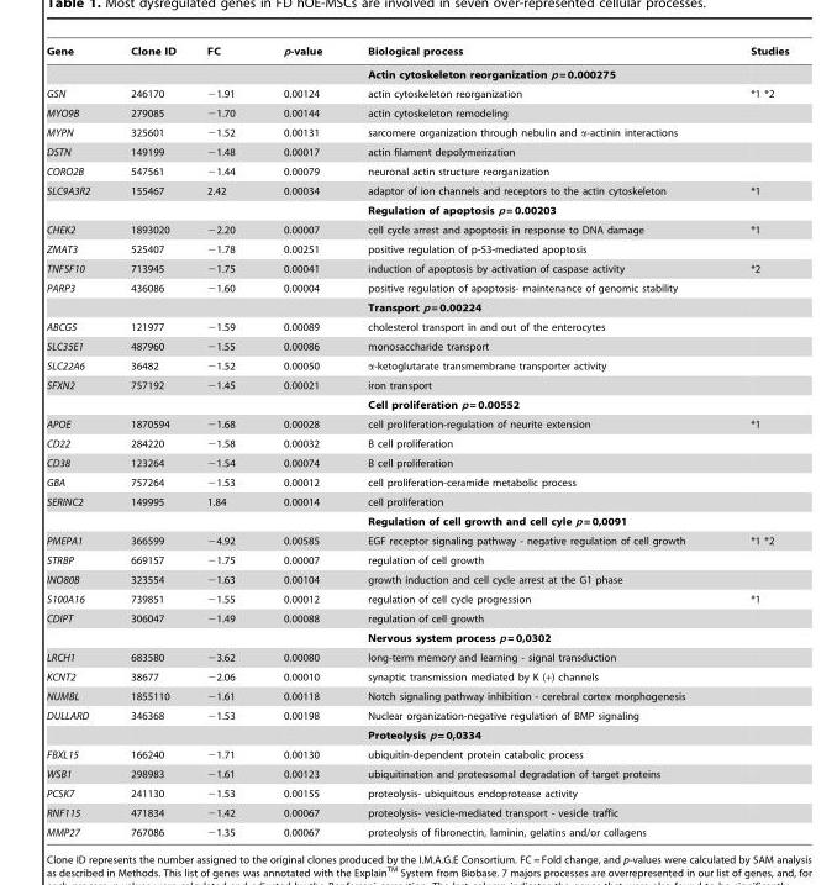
<table><thead><tr><td>Gene</td><td>Clone ID</td><td>FC</td><td>p-value</td><td>Biological process</td><td>Studies</td></tr></thead><tbody><tr><td></td><td></td><td></td><td></td><td>Actin cytoskeleton reorganization p = 0.000275</td><td></td></tr><tr><td>GSN</td><td>246170</td><td>−1.91</td><td>0.00124</td><td>actin cytoskeleton reorganization</td><td>*1 *2</td></tr><tr><td>MYO9B</td><td>279085</td><td>−1.70</td><td>0.00144</td><td>actin cytoskeleton remodeling</td><td></td></tr><tr><td>MYPN</td><td>325601</td><td>−1.52</td><td>0.00131</td><td>sarcomere organization through nebulin and α-actinin interactions</td><td></td></tr><tr><td>DSTN</td><td>149199</td><td>−1.48</td><td>0.00017</td><td>actin filament depolymerization</td><td></td></tr><tr><td>CORO2B</td><td>547561</td><td>−1.44</td><td>0.00079</td><td>neuronal actin structure reorganization</td><td></td></tr><tr><td rowspan="2">SLC9A3R2</td><td>155467</td><td>2.42</td><td>0.00034</td><td>adaptor of ion channels and receptors to the actin cytoskeleton</td><td>*1</td></tr><tr><td></td><td></td><td></td><td>Regulation of apoptosis p = 0.00203</td><td></td></tr><tr><td>CHEK2</td><td>1893020</td><td>−2.20</td><td>0.00007</td><td>cell cycle arrest and apoptosis in response to DNA damage</td><td>*1</td></tr><tr><td>ZMAT3</td><td>525407</td><td>−1.78</td><td>0.00251</td><td>positive regulation of p-53-mediated apoptosis</td><td></td></tr><tr><td>TNFSF10</td><td>713945</td><td>−1.75</td><td>0.00041</td><td>induction of apoptosis by activation of caspase activity</td><td>*2</td></tr><tr><td rowspan="2">PARP3</td><td>436086</td><td>−1.60</td><td>0.00004</td><td>positive regulation of apoptosis- maintenance of genomic stability</td><td></td></tr><tr><td></td><td></td><td></td><td>Transport p = 0.00224</td><td></td></tr><tr><td>ABCG5</td><td>121977</td><td>−1.59</td><td>0.00089</td><td>cholesterol transport in and out of the enterocytes</td><td></td></tr><tr><td>SLC35E1</td><td>487960</td><td>−1.55</td><td>0.00086</td><td>monosaccharide transport</td><td></td></tr><tr><td>SLC22A6</td><td>36482</td><td>−1.52</td><td>0.00050</td><td>α-ketoglutarate transmembrane transporter activity</td><td></td></tr><tr><td rowspan="2">SFXN2</td><td>757192</td><td>−1.45</td><td>0.00021</td><td>iron transport</td><td></td></tr><tr><td></td><td></td><td></td><td>Cell proliferation p = 0.00552</td><td></td></tr><tr><td>APOE</td><td>1870594</td><td>−1.68</td><td>0.00028</td><td>cell proliferation-regulation of neurite extension</td><td>*1</td></tr><tr><td>CD22</td><td>284220</td><td>−1.58</td><td>0.00032</td><td>B cell proliferation</td><td></td></tr><tr><td>CD38</td><td>123264</td><td>−1.54</td><td>0.00074</td><td>B cell proliferation</td><td></td></tr><tr><td>GBA</td><td>757264</td><td>−1.53</td><td>0.00012</td><td>cell proliferation-ceramide metabolic process</td><td></td></tr><tr><td rowspan="2">SERINC2</td><td>149995</td><td>1.84</td><td>0.00014</td><td>cell proliferation</td><td></td></tr><tr><td></td><td></td><td></td><td>Regulation of cell growth and cell cyle p = 0,0091</td><td></td></tr><tr><td>PMEPA1</td><td>366599</td><td>−4.92</td><td>0.00585</td><td>EGF receptor signaling pathway - negative regulation of cell growth</td><td>*1 *2</td></tr><tr><td>STRBP</td><td>669157</td><td>−1.75</td><td>0.00007</td><td>regulation of cell growth</td><td></td></tr><tr><td>INO80B</td><td>323554</td><td>−1.63</td><td>0.00104</td><td>growth induction and cell cycle arrest at the G1 phase</td><td></td></tr><tr><td>S100A16</td><td>739851</td><td>−1.55</td><td>0.00012</td><td>regulation of cell cycle progression</td><td>*1</td></tr><tr><td rowspan="2">CDIPT</td><td>306047</td><td>−1.49</td><td>0.00088</td><td>regulation of cell growth</td><td></td></tr><tr><td></td><td></td><td></td><td>Nervous system process p = 0,0302</td><td></td></tr><tr><td>LRCH1</td><td>683580</td><td>−3.62</td><td>0.00080</td><td>long-term memory and learning - signal transduction</td><td></td></tr><tr><td>KCNT2</td><td>38677</td><td>−2.06</td><td>0.00010</td><td>synaptic transmission mediated by K (+) channels</td><td></td></tr><tr><td>NUMBL</td><td>1855110</td><td>−1.61</td><td>0.00118</td><td>Notch signaling pathway inhibition - cerebral cortex morphogenesis</td><td></td></tr><tr><td rowspan="2">DULLARD</td><td>346368</td><td>−1.53</td><td>0.00198</td><td>Nuclear organization-negative regulation of BMP signaling</td><td></td></tr><tr><td></td><td></td><td></td><td>Proteolysis p = 0,0334</td><td></td></tr><tr><td>FBXL15</td><td>166240</td><td>−1.71</td><td>0.00130</td><td>ubiquitin-dependent protein catabolic process</td><td></td></tr><tr><td>WSB1</td><td>298983</td><td>−1.61</td><td>0.00123</td><td>ubiquitination and proteosomal degradation of target proteins</td><td></td></tr><tr><td>PCSK7</td><td>241130</td><td>−1.53</td><td>0.00155</td><td>proteolysis- ubiquitous endoprotease activity</td><td></td></tr><tr><td>RNF115</td><td>471834</td><td>−1.42</td><td>0.00067</td><td>proteolysis- vesicle-mediated transport - vesicle traffic</td><td></td></tr><tr><td>MMP27</td><td>767086</td><td>−1.35</td><td>0.00067</td><td>proteolysis of fibronectin, laminin, gelatins and/or collagens</td><td></td></tr></tbody></table>